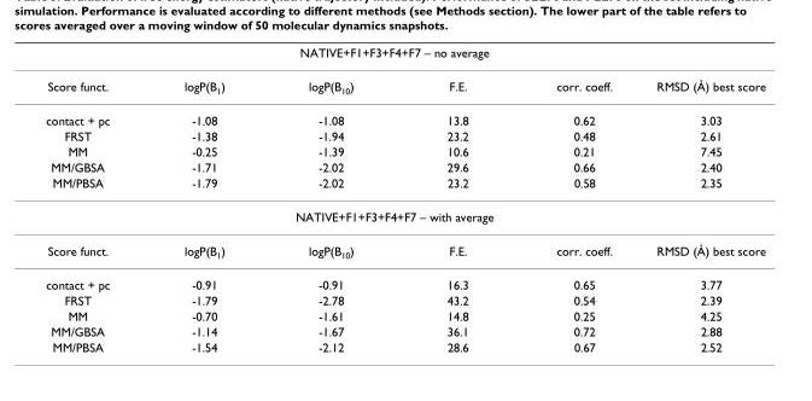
<table><thead><tr><td colspan="6">NATIVE+F1+F3+F4+F7 – no average</td></tr><tr><td>Score funct.</td><td>logP(B<sub>1</sub>)</td><td>logP(B<sub>10</sub>)</td><td>F.E.</td><td>corr. coeff.</td><td>RMSD (Å) best score</td></tr></thead><tbody><tr><td>contact + pc</td><td>-1.08</td><td>-1.08</td><td>13.8</td><td>0.62</td><td>3.03</td></tr><tr><td>FRST</td><td>-1.38</td><td>-1.94</td><td>23.2</td><td>0.48</td><td>2.61</td></tr><tr><td>MM</td><td>-0.25</td><td>-1.39</td><td>10.6</td><td>0.21</td><td>7.45</td></tr><tr><td>MM/GBSA</td><td>-1.71</td><td>-2.02</td><td>29.6</td><td>0.66</td><td>2.40</td></tr><tr><td>MM/PBSA</td><td>-1.79</td><td>-2.02</td><td>23.2</td><td>0.58</td><td>2.35</td></tr><tr><td colspan="6">NATIVE+F1+F3+F4+F7 – with average</td></tr><tr><td>Score funct.</td><td>logP(B<sub>1</sub>)</td><td>logP(B<sub>10</sub>)</td><td>F.E.</td><td>corr. coeff.</td><td>RMSD (Å) best score</td></tr><tr><td>contact + pc</td><td>-0.91</td><td>-0.91</td><td>16.3</td><td>0.65</td><td>3.77</td></tr><tr><td>FRST</td><td>-1.79</td><td>-2.78</td><td>43.2</td><td>0.54</td><td>2.39</td></tr><tr><td>MM</td><td>-0.70</td><td>-1.61</td><td>14.8</td><td>0.25</td><td>4.25</td></tr><tr><td>MM/GBSA</td><td>-1.14</td><td>-1.67</td><td>36.1</td><td>0.72</td><td>2.88</td></tr><tr><td>MM/PBSA</td><td>-1.54</td><td>-2.12</td><td>28.6</td><td>0.67</td><td>2.52</td></tr></tbody></table>